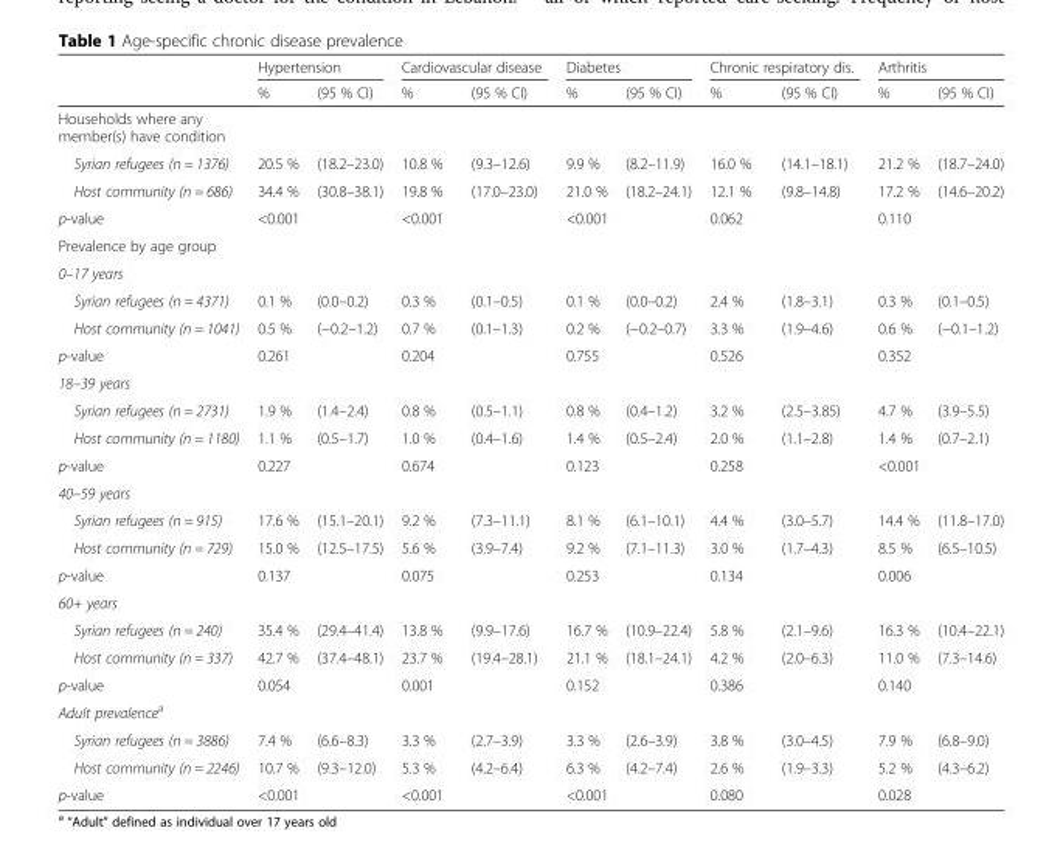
<table><thead><tr><td rowspan="2"></td><td colspan="2">Hypertension</td><td colspan="2">Cardiovascular disease</td><td colspan="2">Diabetes</td><td colspan="2">Chronic respiratory dis.</td><td colspan="2">Arthritis</td></tr><tr><td>%</td><td>(95 % CI)</td><td>%</td><td>(95 % CI)</td><td>%</td><td>(95 % CI)</td><td>%</td><td>(95 % CI)</td><td>%</td><td>(95 % CI)</td></tr></thead><tbody><tr><td colspan="11">Households where any member(s) have condition</td></tr><tr><td>Syrian refugees (n = 1376)</td><td>20.5 %</td><td>(18.2–23.0)</td><td>10.8 %</td><td>(9.3–12.6)</td><td>9.9 %</td><td>(8.2–11.9)</td><td>16.0 %</td><td>(14.1–18.1)</td><td>21.2 %</td><td>(18.7–24.0)</td></tr><tr><td>Host community (n = 686)</td><td>34.4 %</td><td>(30.8–38.1)</td><td>19.8 %</td><td>(17.0–23.0)</td><td>21.0 %</td><td>(18.2–24.1)</td><td>12.1 %</td><td>(9.8–14.8)</td><td>17.2 %</td><td>(14.6–20.2)</td></tr><tr><td>p-value</td><td colspan="2">&lt;0.001</td><td colspan="2">&lt;0.001</td><td colspan="2">&lt;0.001</td><td colspan="2">0.062</td><td colspan="2">0.110</td></tr><tr><td colspan="11">Prevalence by age group</td></tr><tr><td colspan="11">0–17 years</td></tr><tr><td>Syrian refugees (n = 4371)</td><td>0.1 %</td><td>(0.0–0.2)</td><td>0.3 %</td><td>(0.1–0.5)</td><td>0.1 %</td><td>(0.0–0.2)</td><td>2.4 %</td><td>(1.8–3.1)</td><td>0.3 %</td><td>(0.1–0.5)</td></tr><tr><td>Host community (n = 1041)</td><td>0.5 %</td><td>(−0.2–1.2)</td><td>0.7 %</td><td>(0.1–1.3)</td><td>0.2 %</td><td>(−0.2–0.7)</td><td>3.3 %</td><td>(1.9–4.6)</td><td>0.6 %</td><td>(−0.1–1.2)</td></tr><tr><td>p-value</td><td colspan="2">0.261</td><td colspan="2">0.204</td><td colspan="2">0.755</td><td colspan="2">0.526</td><td colspan="2">0.352</td></tr><tr><td colspan="11">18–39 years</td></tr><tr><td>Syrian refugees (n = 2731)</td><td>1.9 %</td><td>(1.4–2.4)</td><td>0.8 %</td><td>(0.5–1.1)</td><td>0.8 %</td><td>(0.4–1.2)</td><td>3.2 %</td><td>(2.5–3.85)</td><td>4.7 %</td><td>(3.9–5.5)</td></tr><tr><td>Host community (n = 1180)</td><td>1.1 %</td><td>(0.5–1.7)</td><td>1.0 %</td><td>(0.4–1.6)</td><td>1.4 %</td><td>(0.5–2.4)</td><td>2.0 %</td><td>(1.1–2.8)</td><td>1.4 %</td><td>(0.7–2.1)</td></tr><tr><td>p-value</td><td colspan="2">0.227</td><td colspan="2">0.674</td><td colspan="2">0.123</td><td colspan="2">0.258</td><td colspan="2">&lt;0.001</td></tr><tr><td colspan="11">40–59 years</td></tr><tr><td>Syrian refugees (n = 915)</td><td>17.6 %</td><td>(15.1–20.1)</td><td>9.2 %</td><td>(7.3–11.1)</td><td>8.1 %</td><td>(6.1–10.1)</td><td>4.4 %</td><td>(3.0–5.7)</td><td>14.4 %</td><td>(11.8–17.0)</td></tr><tr><td>Host community (n = 729)</td><td>15.0 %</td><td>(12.5–17.5)</td><td>5.6 %</td><td>(3.9–7.4)</td><td>9.2 %</td><td>(7.1–11.3)</td><td>3.0 %</td><td>(1.7–4.3)</td><td>8.5 %</td><td>(6.5–10.5)</td></tr><tr><td>p-value</td><td colspan="2">0.137</td><td colspan="2">0.075</td><td colspan="2">0.253</td><td colspan="2">0.134</td><td colspan="2">0.006</td></tr><tr><td colspan="11">60+ years</td></tr><tr><td>Syrian refugees (n = 240)</td><td>35.4 %</td><td>(29.4–41.4)</td><td>13.8 %</td><td>(9.9–17.6)</td><td>16.7 %</td><td>(10.9–22.4)</td><td>5.8 %</td><td>(2.1–9.6)</td><td>16.3 %</td><td>(10.4–22.1)</td></tr><tr><td>Host community (n = 337)</td><td>42.7 %</td><td>(37.4–48.1)</td><td>23.7 %</td><td>(19.4–28.1)</td><td>21.1 %</td><td>(18.1–24.1)</td><td>4.2 %</td><td>(2.0–6.3)</td><td>11.0 %</td><td>(7.3–14.6)</td></tr><tr><td>p-value</td><td colspan="2">0.054</td><td colspan="2">0.001</td><td colspan="2">0.152</td><td colspan="2">0.386</td><td colspan="2">0.140</td></tr><tr><td colspan="11">Adult prevalence<sup>a</sup></td></tr><tr><td>Syrian refugees (n = 3886)</td><td>7.4 %</td><td>(6.6–8.3)</td><td>3.3 %</td><td>(2.7–3.9)</td><td>3.3 %</td><td>(2.6–3.9)</td><td>3.8 %</td><td>(3.0–4.5)</td><td>7.9 %</td><td>(6.8–9.0)</td></tr><tr><td>Host community (n = 2246)</td><td>10.7 %</td><td>(9.3–12.0)</td><td>5.3 %</td><td>(4.2–6.4)</td><td>6.3 %</td><td>(4.2–7.4)</td><td>2.6 %</td><td>(1.9–3.3)</td><td>5.2 %</td><td>(4.3–6.2)</td></tr><tr><td>p-value</td><td colspan="2">&lt;0.001</td><td colspan="2">&lt;0.001</td><td colspan="2">&lt;0.001</td><td colspan="2">0.080</td><td colspan="2">0.028</td></tr></tbody></table>